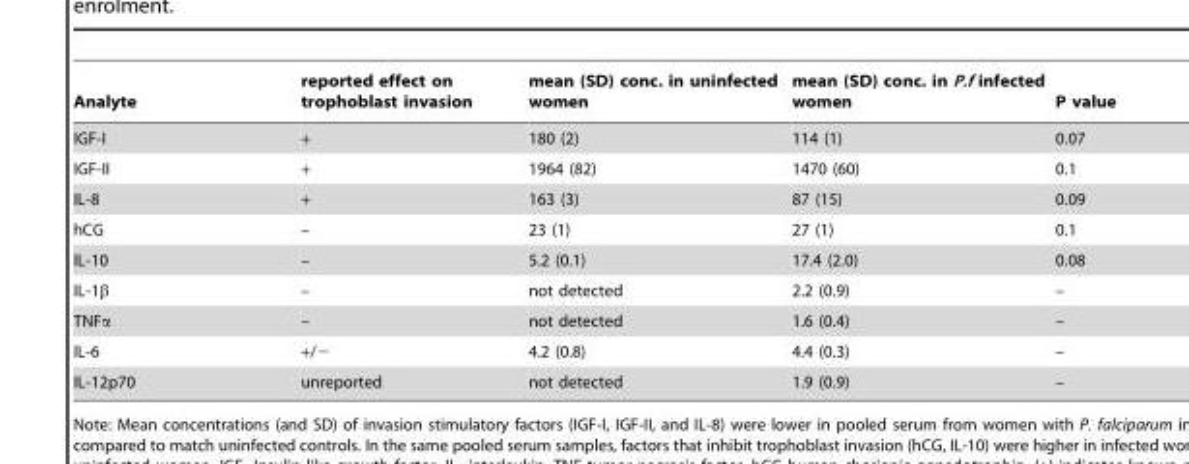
<table><thead><tr><td>Analyte</td><td>reported effect on trophoblast invasion</td><td>mean (SD) conc. in uninfected women</td><td>mean (SD) conc. in P.f infected women</td><td>P value</td></tr></thead><tbody><tr><td>IGF-I</td><td>+</td><td>180 (2)</td><td>114 (1)</td><td>0.07</td></tr><tr><td>IGF-II</td><td>+</td><td>1964 (82)</td><td>1470 (60)</td><td>0.1</td></tr><tr><td>IL-8</td><td>+</td><td>163 (3)</td><td>87 (15)</td><td>0.09</td></tr><tr><td>hCG</td><td>–</td><td>23 (1)</td><td>27 (1)</td><td>0.1</td></tr><tr><td>IL-10</td><td>–</td><td>5.2 (0.1)</td><td>17.4 (2.0)</td><td>0.08</td></tr><tr><td>IL-1β</td><td>–</td><td>not detected</td><td>2.2 (0.9)</td><td>–</td></tr><tr><td>TNFα</td><td>–</td><td>not detected</td><td>1.6 (0.4)</td><td>–</td></tr><tr><td>IL-6</td><td>+/−</td><td>4.2 (0.8)</td><td>4.4 (0.3)</td><td>–</td></tr><tr><td>IL-12p70</td><td>unreported</td><td>not detected</td><td>1.9 (0.9)</td><td>–</td></tr></tbody></table>